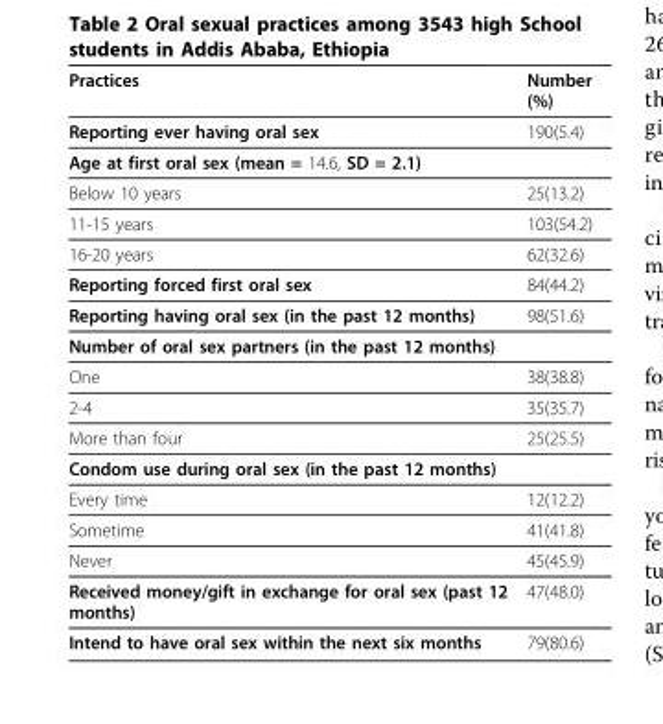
<table><thead><tr><td>Practices</td><td>Number (%)</td></tr></thead><tbody><tr><td>Reporting ever having oral sex</td><td>190(5.4)</td></tr><tr><td colspan="2">Age at first oral sex (mean = 14.6, SD = 2.1)</td></tr><tr><td>Below 10 years</td><td>25(13.2)</td></tr><tr><td>11-15 years</td><td>103(54.2)</td></tr><tr><td>16-20 years</td><td>62(32.6)</td></tr><tr><td>Reporting forced first oral sex</td><td>84(44.2)</td></tr><tr><td>Reporting having oral sex (in the past 12 months)</td><td>98(51.6)</td></tr><tr><td colspan="2">Number of oral sex partners (in the past 12 months)</td></tr><tr><td>One</td><td>38(38.8)</td></tr><tr><td>2-4</td><td>35(35.7)</td></tr><tr><td>More than four</td><td>25(25.5)</td></tr><tr><td colspan="2">Condom use during oral sex (in the past 12 months)</td></tr><tr><td>Every time</td><td>12(12.2)</td></tr><tr><td>Sometime</td><td>41(41.8)</td></tr><tr><td>Never</td><td>45(45.9)</td></tr><tr><td>Received money/gift in exchange for oral sex (past 12 months)</td><td>47(48.0)</td></tr><tr><td>Intend to have oral sex within the next six months</td><td>79(80.6)</td></tr></tbody></table>